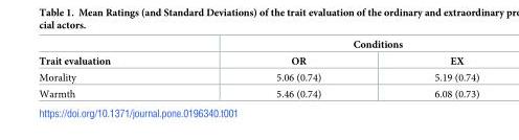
<table><thead><tr><td rowspan="2">Trait evaluation</td><td colspan="2">Conditions</td></tr><tr><td>OR</td><td>EX</td></tr></thead><tbody><tr><td>Morality</td><td>5.06 (0.74)</td><td>5.19 (0.74)</td></tr><tr><td>Warmth</td><td>5.46 (0.74)</td><td>6.08 (0.73)</td></tr></tbody></table>